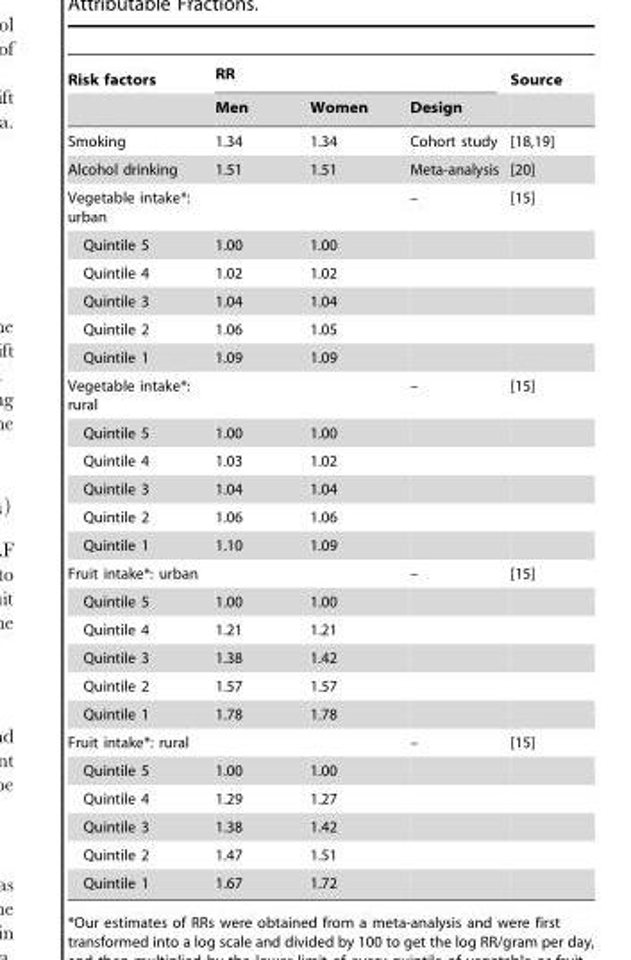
<table><thead><tr><td rowspan="2">Risk factors</td><td colspan="3">RR</td><td rowspan="2">Source</td></tr><tr><td>Men</td><td>Women</td><td>Design</td></tr></thead><tbody><tr><td>Smoking</td><td>1.34</td><td>1.34</td><td>Cohort study</td><td>[18,19]</td></tr><tr><td>Alcohol drinking</td><td>1.51</td><td>1.51</td><td>Meta-analysis</td><td>[20]</td></tr><tr><td>Vegetable intake*: urban</td><td></td><td></td><td>–</td><td>[15]</td></tr><tr><td>Quintile 5</td><td>1.00</td><td>1.00</td><td></td><td></td></tr><tr><td>Quintile 4</td><td>1.02</td><td>1.02</td><td></td><td></td></tr><tr><td>Quintile 3</td><td>1.04</td><td>1.04</td><td></td><td></td></tr><tr><td>Quintile 2</td><td>1.06</td><td>1.05</td><td></td><td></td></tr><tr><td>Quintile 1</td><td>1.09</td><td>1.09</td><td></td><td></td></tr><tr><td>Vegetable intake*: rural</td><td></td><td></td><td>–</td><td>[15]</td></tr><tr><td>Quintile 5</td><td>1.00</td><td>1.00</td><td></td><td></td></tr><tr><td>Quintile 4</td><td>1.03</td><td>1.02</td><td></td><td></td></tr><tr><td>Quintile 3</td><td>1.04</td><td>1.04</td><td></td><td></td></tr><tr><td>Quintile 2</td><td>1.06</td><td>1.06</td><td></td><td></td></tr><tr><td>Quintile 1</td><td>1.10</td><td>1.09</td><td></td><td></td></tr><tr><td>Fruit intake*: urban</td><td></td><td></td><td>–</td><td>[15]</td></tr><tr><td>Quintile 5</td><td>1.00</td><td>1.00</td><td></td><td></td></tr><tr><td>Quintile 4</td><td>1.21</td><td>1.21</td><td></td><td></td></tr><tr><td>Quintile 3</td><td>1.38</td><td>1.42</td><td></td><td></td></tr><tr><td>Quintile 2</td><td>1.57</td><td>1.57</td><td></td><td></td></tr><tr><td>Quintile 1</td><td>1.78</td><td>1.78</td><td></td><td></td></tr><tr><td>Fruit intake*: rural</td><td></td><td></td><td>–</td><td>[15]</td></tr><tr><td>Quintile 5</td><td>1.00</td><td>1.00</td><td></td><td></td></tr><tr><td>Quintile 4</td><td>1.29</td><td>1.27</td><td></td><td></td></tr><tr><td>Quintile 3</td><td>1.38</td><td>1.42</td><td></td><td></td></tr><tr><td>Quintile 2</td><td>1.47</td><td>1.51</td><td></td><td></td></tr><tr><td>Quintile 1</td><td>1.67</td><td>1.72</td><td></td><td></td></tr></tbody></table>